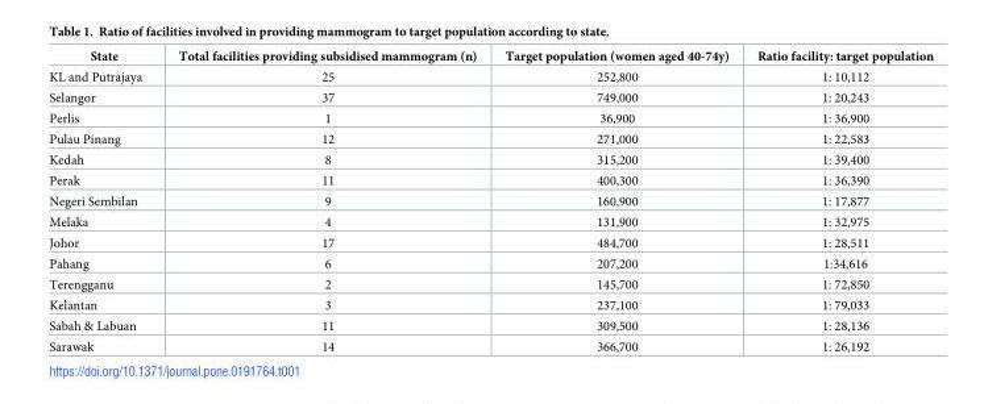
<table><thead><tr><td>State</td><td>Total facilities providing subsidised mammogram (n)</td><td>Target population (women aged 40-74y)</td><td>Ratio facility: target population</td></tr></thead><tbody><tr><td>KL and Putrajaya</td><td>25</td><td>252,800</td><td>1: 10,112</td></tr><tr><td>Selangor</td><td>37</td><td>749,000</td><td>1: 20,243</td></tr><tr><td>Perlis</td><td>1</td><td>36,900</td><td>1: 36,900</td></tr><tr><td>Pulau Pinang</td><td>12</td><td>271,000</td><td>1: 22,583</td></tr><tr><td>Kedah</td><td>8</td><td>315,200</td><td>1: 39,400</td></tr><tr><td>Perak</td><td>11</td><td>400,300</td><td>1: 36,390</td></tr><tr><td>Negeri Sembilan</td><td>9</td><td>160,900</td><td>1: 17,877</td></tr><tr><td>Melaka</td><td>4</td><td>131,900</td><td>1: 32,975</td></tr><tr><td>Johor</td><td>17</td><td>484,700</td><td>1: 28,511</td></tr><tr><td>Pahang</td><td>6</td><td>207,200</td><td>1:34,616</td></tr><tr><td>Terengganu</td><td>2</td><td>145,700</td><td>1: 72,850</td></tr><tr><td>Kelantan</td><td>3</td><td>237,100</td><td>1: 79,033</td></tr><tr><td>Sabah &amp; Labuan</td><td>11</td><td>309,500</td><td>1: 28,136</td></tr><tr><td>Sarawak</td><td>14</td><td>366,700</td><td>1: 26,192</td></tr></tbody></table>